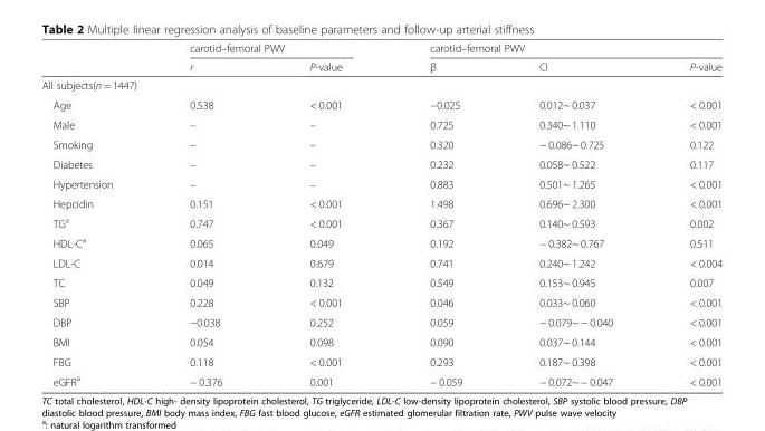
<table><thead><tr><td rowspan="2"></td><td colspan="2">carotid–femoral PWV</td><td colspan="3">carotid–femoral PWV</td></tr><tr><td>r</td><td>P-value</td><td>β</td><td>CI</td><td>P-value</td></tr></thead><tbody><tr><td colspan="6">All subjects(n = 1447)</td></tr><tr><td>Age</td><td>0.538</td><td>&lt; 0.001</td><td>−0.025</td><td>0.012~ 0.037</td><td>&lt; 0.001</td></tr><tr><td>Male</td><td>–</td><td>–</td><td>0.725</td><td>0.340~ 1.110</td><td>&lt; 0.001</td></tr><tr><td>Smoking</td><td>–</td><td>–</td><td>0.320</td><td>− 0.086~ 0.725</td><td>0.122</td></tr><tr><td>Diabetes</td><td>–</td><td>–</td><td>0.232</td><td>0.058~ 0.522</td><td>0.117</td></tr><tr><td>Hypertension</td><td>–</td><td>–</td><td>0.883</td><td>0.501~ 1.265</td><td>&lt; 0.001</td></tr><tr><td>Hepcidin</td><td>0.151</td><td>&lt; 0.001</td><td>1.498</td><td>0.696~ 2.300</td><td>&lt; 0.001</td></tr><tr><td>TG<sup>a</sup></td><td>0.747</td><td>&lt; 0.001</td><td>0.367</td><td>0.140~ 0.593</td><td>0.002</td></tr><tr><td>HDL-C<sup>a</sup></td><td>0.065</td><td>0.049</td><td>0.192</td><td>− 0.382~ 0.767</td><td>0.511</td></tr><tr><td>LDL-C</td><td>0.014</td><td>0.679</td><td>0.741</td><td>0.240~ 1.242</td><td>&lt; 0.004</td></tr><tr><td>TC</td><td>0.049</td><td>0.132</td><td>0.549</td><td>0.153~ 0.945</td><td>0.007</td></tr><tr><td>SBP</td><td>0.228</td><td>&lt; 0.001</td><td>0.046</td><td>0.033~ 0.060</td><td>&lt; 0.001</td></tr><tr><td>DBP</td><td>−0.038</td><td>0.252</td><td>0.059</td><td>− 0.079~ − 0.040</td><td>&lt; 0.001</td></tr><tr><td>BMI</td><td>0.054</td><td>0.098</td><td>0.090</td><td>0.037~ 0.144</td><td>&lt; 0.001</td></tr><tr><td>FBG</td><td>0.118</td><td>&lt; 0.001</td><td>0.293</td><td>0.187~ 0.398</td><td>&lt; 0.001</td></tr><tr><td>eGFR<sup>a</sup></td><td>− 0.376</td><td>0.001</td><td>− 0.059</td><td>− 0.072~ − 0.047</td><td>&lt; 0.001</td></tr></tbody></table>